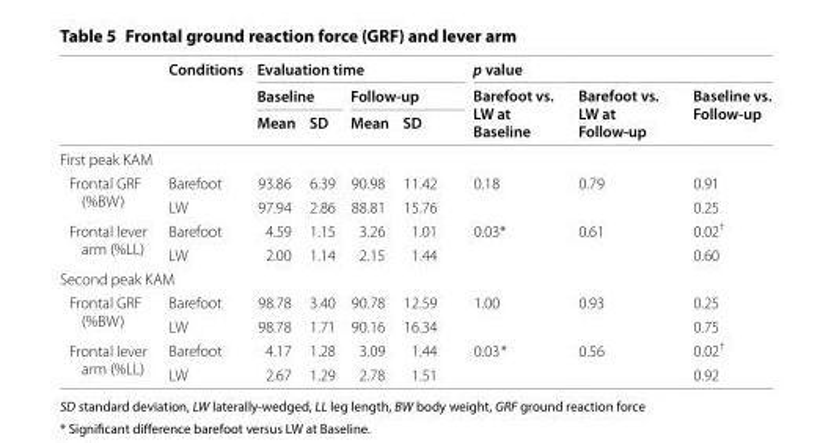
<table><thead><tr><td rowspan="3"></td><td rowspan="3">Conditions</td><td colspan="4">Evaluation time</td><td colspan="3">p value</td></tr><tr><td colspan="2">Baseline</td><td colspan="2">Follow‑up</td><td rowspan="2">Barefoot vs. LW at Baseline</td><td rowspan="2">Barefoot vs. LW at Follow‑up</td><td rowspan="2">Baseline vs. Follow‑up</td></tr><tr><td>Mean</td><td>SD</td><td>Mean</td><td>SD</td></tr></thead><tbody><tr><td colspan="9">First peak KAM</td></tr><tr><td rowspan="2">Frontal GRF (%BW)</td><td>Barefoot</td><td>93.86</td><td>6.39</td><td>90.98</td><td>11.42</td><td rowspan="2">0.18</td><td rowspan="2">0.79</td><td>0.91</td></tr><tr><td>LW</td><td>97.94</td><td>2.86</td><td>88.81</td><td>15.76</td><td>0.25</td></tr><tr><td rowspan="2">Frontal lever arm (%LL)</td><td>Barefoot</td><td>4.59</td><td>1.15</td><td>3.26</td><td>1.01</td><td rowspan="2">0.03*</td><td rowspan="2">0.61</td><td>0.02<sup>†</sup></td></tr><tr><td>LW</td><td>2.00</td><td>1.14</td><td>2.15</td><td>1.44</td><td>0.60</td></tr><tr><td colspan="9">Second peak KAM</td></tr><tr><td rowspan="2">Frontal GRF (%BW)</td><td>Barefoot</td><td>98.78</td><td>3.40</td><td>90.78</td><td>12.59</td><td rowspan="2">1.00</td><td rowspan="2">0.93</td><td>0.25</td></tr><tr><td>LW</td><td>98.78</td><td>1.71</td><td>90.16</td><td>16.34</td><td>0.75</td></tr><tr><td rowspan="2">Frontal lever arm (%LL)</td><td>Barefoot</td><td>4.17</td><td>1.28</td><td>3.09</td><td>1.44</td><td rowspan="2">0.03*</td><td rowspan="2">0.56</td><td>0.02<sup>†</sup></td></tr><tr><td>LW</td><td>2.67</td><td>1.29</td><td>2.78</td><td>1.51</td><td>0.92</td></tr></tbody></table>